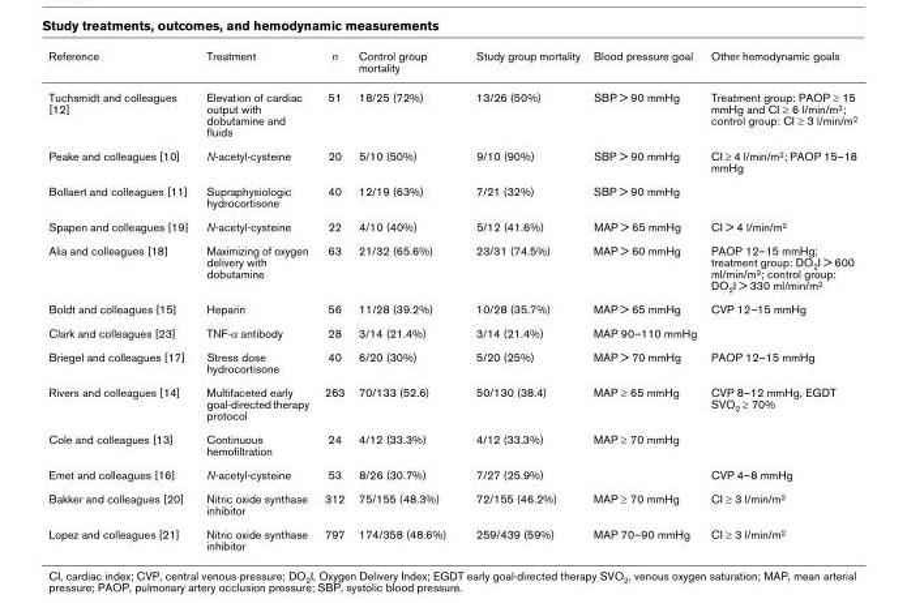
<table><thead><tr><td>Reference</td><td>Treatment</td><td>n</td><td>Control group mortality</td><td>Study group mortality</td><td>Blood pressure goal</td><td>Other hemodynamic goals</td></tr></thead><tbody><tr><td>Tuchsmidt and colleagues [12]</td><td>Elevation of cardiac output with dobutamine and fluids</td><td>51</td><td>18/25 (72%)</td><td>13/26 (50%)</td><td>SBP &gt; 90 mmHg</td><td>Treatment group: PAOP ≥ 15 mmHg and CI ≥ 6 l/min/m<sup>2</sup>; control group: CI ≥ 3 l/min/m<sup>2</sup></td></tr><tr><td>Peake and colleagues [10]</td><td>N-acetyl-cysteine</td><td>20</td><td>5/10 (50%)</td><td>9/10 (90%)</td><td>SBP &gt; 90 mmHg</td><td>CI ≥ 4 l/min/m<sup>2</sup>; PAOP 15–18 mmHg</td></tr><tr><td>Bollaert and colleagues [11]</td><td>Supraphysiologic hydrocortisone</td><td>40</td><td>12/19 (63%)</td><td>7/21 (32%)</td><td>SBP &gt; 90 mmHg</td><td></td></tr><tr><td>Spapen and colleagues [19]</td><td>N-acetyl-cysteine</td><td>22</td><td>4/10 (40%)</td><td>5/12 (41.6%)</td><td>MAP &gt; 65 mmHg</td><td>CI &gt; 4 l/min/m<sup>2</sup></td></tr><tr><td>Alia and colleagues [18]</td><td>Maximizing of oxygen delivery with dobutamine</td><td>63</td><td>21/32 (65.6%)</td><td>23/31 (74.5%)</td><td>MAP &gt; 60 mmHg</td><td>PAOP 12–15 mmHg; treatment group: DO<sub>2</sub>I &gt; 600 ml/min/m<sup>2</sup>; control group: DO<sub>2</sub>I &gt; 330 ml/min/m<sup>2</sup></td></tr><tr><td>Boldt and colleagues [15]</td><td>Heparin</td><td>56</td><td>11/28 (39.2%)</td><td>10/28 (35.7%)</td><td>MAP &gt; 65 mmHg</td><td>CVP 12–15 mmHg</td></tr><tr><td>Clark and colleagues [23]</td><td>TNF-α antibody</td><td>28</td><td>3/14 (21.4%)</td><td>3/14 (21.4%)</td><td>MAP 90–110 mmHg</td><td></td></tr><tr><td>Briegel and colleagues [17]</td><td>Stress dose hydrocortisone</td><td>40</td><td>6/20 (30%)</td><td>5/20 (25%)</td><td>MAP &gt; 70 mmHg</td><td>PAOP 12–15 mmHg</td></tr><tr><td>Rivers and colleagues [14]</td><td>Multifaceted early goal-directed therapy protocol</td><td>263</td><td>70/133 (52.6)</td><td>50/130 (38.4)</td><td>MAP ≥ 65 mmHg</td><td>CVP 8–12 mmHg, EGDT SVO<sub>2</sub> ≥ 70%</td></tr><tr><td>Cole and colleagues [13]</td><td>Continuous hemofiltration</td><td>24</td><td>4/12 (33.3%)</td><td>4/12 (33.3%)</td><td>MAP ≥ 70 mmHg</td><td></td></tr><tr><td>Emet and colleagues [16]</td><td>N-acetyl-cysteine</td><td>53</td><td>8/26 (30.7%)</td><td>7/27 (25.9%)</td><td></td><td>CVP 4–8 mmHg</td></tr><tr><td>Bakker and colleagues [20]</td><td>Nitric oxide synthase inhibitor</td><td>312</td><td>75/155 (48.3%)</td><td>72/155 (46.2%)</td><td>MAP ≥ 70 mmHg</td><td>CI ≥ 3 l/min/m<sup>2</sup></td></tr><tr><td>Lopez and colleagues [21]</td><td>Nitric oxide synthase inhibitor</td><td>797</td><td>174/358 (48.6%)</td><td>259/439 (59%)</td><td>MAP 70–90 mmHg</td><td>CI ≥ 3 l/min/m<sup>2</sup></td></tr></tbody></table>